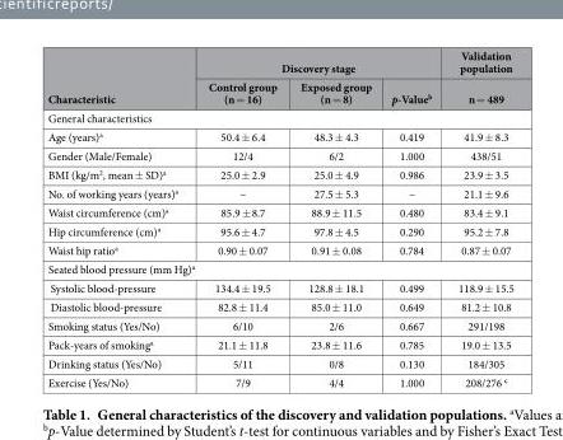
<table><thead><tr><td rowspan="2">Characteristic</td><td colspan="3">Discovery stage</td><td rowspan="2">Validation population n = 489</td></tr><tr><td>Control group (n = 16)</td><td>Exposed group (n = 8)</td><td>p-Value<sup>b</sup></td></tr></thead><tbody><tr><td colspan="5">General characteristics</td></tr><tr><td>Age (years)<sup>a</sup></td><td>50.4 ± 6.4</td><td>48.3 ± 4.3</td><td>0.419</td><td>41.9 ± 8.3</td></tr><tr><td>Gender (Male/Female)</td><td>12/4</td><td>6/2</td><td>1.000</td><td>438/51</td></tr><tr><td>BMI (kg/m<sup>2</sup>, mean ± SD)<sup>a</sup></td><td>25.0 ± 2.9</td><td>25.0 ± 4.9</td><td>0.986</td><td>23.9 ± 3.5</td></tr><tr><td>No. of working years (years)<sup>a</sup></td><td>–</td><td>27.5 ± 5.3</td><td>–</td><td>21.1 ± 9.6</td></tr><tr><td>Waist circumference (cm)<sup>a</sup></td><td>85.9 ± 8.7</td><td>88.9 ± 11.5</td><td>0.480</td><td>83.4 ± 9.1</td></tr><tr><td>Hip circumference (cm)<sup>a</sup></td><td>95.6 ± 4.7</td><td>97.8 ± 4.5</td><td>0.290</td><td>95.2 ± 7.8</td></tr><tr><td>Waist hip ratio<sup>a</sup></td><td>0.90 ± 0.07</td><td>0.91 ± 0.08</td><td>0.784</td><td>0.87 ± 0.07</td></tr><tr><td colspan="5">Seated blood pressure (mm Hg)<sup>a</sup></td></tr><tr><td>Systolic blood-pressure</td><td>134.4 ± 19.5</td><td>128.8 ± 18.1</td><td>0.499</td><td>118.9 ± 15.5</td></tr><tr><td>Diastolic blood-pressure</td><td>82.8 ± 11.4</td><td>85.0 ± 11.0</td><td>0.649</td><td>81.2 ± 10.8</td></tr><tr><td>Smoking status (Yes/No)</td><td>6/10</td><td>2/6</td><td>0.667</td><td>291/198</td></tr><tr><td>Pack-years of smoking<sup>a</sup></td><td>21.1 ± 11.8</td><td>23.8 ± 11.6</td><td>0.785</td><td>19.0 ± 13.5</td></tr><tr><td>Drinking status (Yes/No)</td><td>5/11</td><td>0/8</td><td>0.130</td><td>184/305</td></tr><tr><td>Exercise (Yes/No)</td><td>7/9</td><td>4/4</td><td>1.000</td><td>208/276 c</td></tr></tbody></table>